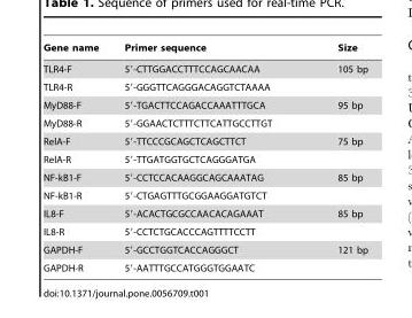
<table><thead><tr><td>Gene name</td><td>Primer sequence</td><td>Size</td></tr></thead><tbody><tr><td>TLR4-F</td><td>5′-CTTGGACCTTTCCAGCAACAA</td><td>105 bp</td></tr><tr><td>TLR4-R</td><td>5′-GGGTTCAGGGACAGGTCTAAAA</td><td></td></tr><tr><td>MyD88-F</td><td>5′-TGACTTCCAGACCAAATTTGCA</td><td>95 bp</td></tr><tr><td>MyD88-R</td><td>5′-GGAACTCTTTCTTCATTGCCTTGT</td><td></td></tr><tr><td>RelA-F</td><td>5′-TTCCCGCAGCTCAGCTTCT</td><td>75 bp</td></tr><tr><td>RelA-R</td><td>5′-TTGATGGTGCTCAGGGATGA</td><td></td></tr><tr><td>NF-kB1-F</td><td>5′-CCTCCACAAGGCAGCAAATAG</td><td>85 bp</td></tr><tr><td>NF-kB1-R</td><td>5′-CTGAGTTTGCGGAAGGATGTCT</td><td></td></tr><tr><td>IL8-F</td><td>5′-ACACTGCGCCAACACAGAAAT</td><td>85 bp</td></tr><tr><td>IL8-R</td><td>5′-CCTCTGCACCCAGTTTTCCTT</td><td></td></tr><tr><td>GAPDH-F</td><td>5′-GCCTGGTCACCAGGGCT</td><td>121 bp</td></tr><tr><td>GAPDH-R</td><td>5′-AATTTGCCATGGGTGGAATC</td><td></td></tr></tbody></table>